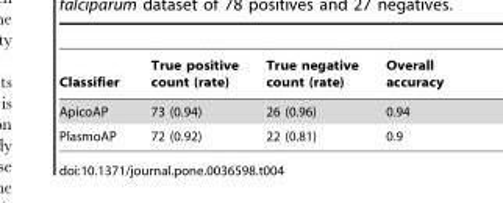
<table><thead><tr><td>Classifier</td><td>True positive count (rate)</td><td>True negative count (rate)</td><td>Overall accuracy</td></tr></thead><tbody><tr><td>ApicoAP</td><td>73 (0.94)</td><td>26 (0.96)</td><td>0.94</td></tr><tr><td>PlasmoAP</td><td>72 (0.92)</td><td>22 (0.81)</td><td>0.9</td></tr></tbody></table>